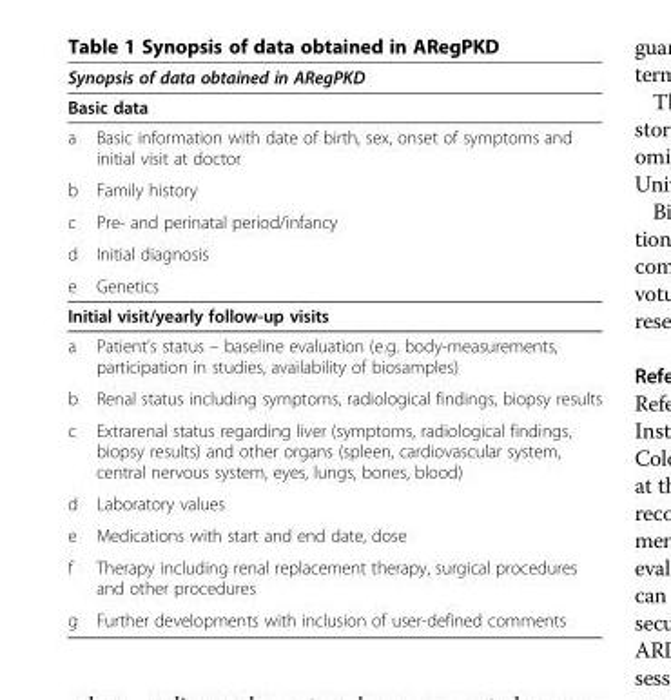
<table><thead><tr><td rowspan="2" colspan="2">Synopsis of data obtained in ARegPKD Basic data</td></tr><tr></tr><tr><td>a</td><td>Basic information with date of birth, sex, onset of symptoms and initial visit at doctor</td></tr></thead><tbody><tr><td>b</td><td>Family history</td></tr><tr><td>c</td><td>Pre- and perinatal period/infancy</td></tr><tr><td>d</td><td>Initial diagnosis</td></tr><tr><td>e</td><td>Genetics</td></tr><tr><td colspan="2">Initial visit/yearly follow-up visits</td></tr><tr><td>a</td><td>Patient’s status – baseline evaluation (e.g. body-measurements, participation in studies, availability of biosamples)</td></tr><tr><td>b</td><td>Renal status including symptoms, radiological findings, biopsy results</td></tr><tr><td>c</td><td>Extrarenal status regarding liver (symptoms, radiological findings, biopsy results) and other organs (spleen, cardiovascular system, central nervous system, eyes, lungs, bones, blood)</td></tr><tr><td>d</td><td>Laboratory values</td></tr><tr><td>e</td><td>Medications with start and end date, dose</td></tr><tr><td>f</td><td>Therapy including renal replacement therapy, surgical procedures and other procedures</td></tr><tr><td>g</td><td>Further developments with inclusion of user-defined comments</td></tr></tbody></table>